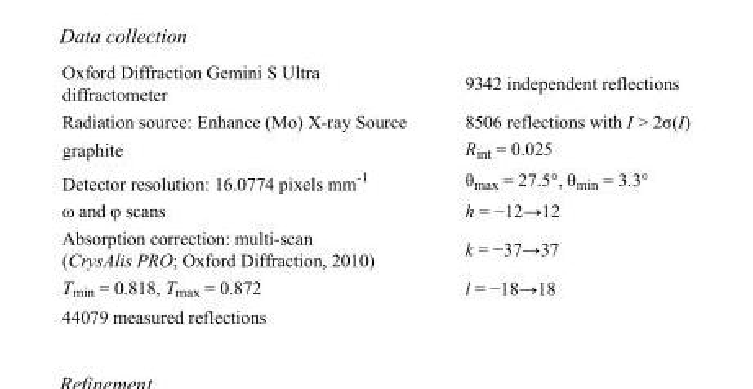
<table><tbody><tr><td>Oxford Diffraction Gemini S Ultra diffractometer</td><td>9342 independent reflections</td></tr><tr><td>Radiation source: Enhance (Mo) X-ray Source</td><td>8506 reflections with I &gt; 2σ(I)</td></tr><tr><td>graphite</td><td>R<sub>int</sub> = 0.025</td></tr><tr><td>Detector resolution: 16.0774 pixels mm<sup>-1</sup></td><td>θ<sub>max</sub> = 27.5°, θ<sub>min</sub> = 3.3°</td></tr><tr><td>ω and φ scans</td><td>h = −12→12</td></tr><tr><td>Absorption correction: multi-scan (CrysAlis PRO; Oxford Diffraction, 2010)</td><td>k = −37→37</td></tr><tr><td>T<sub>min</sub> = 0.818, T<sub>max</sub> = 0.872</td><td>l = −18→18</td></tr><tr><td>44079 measured reflections</td><td></td></tr></tbody></table>